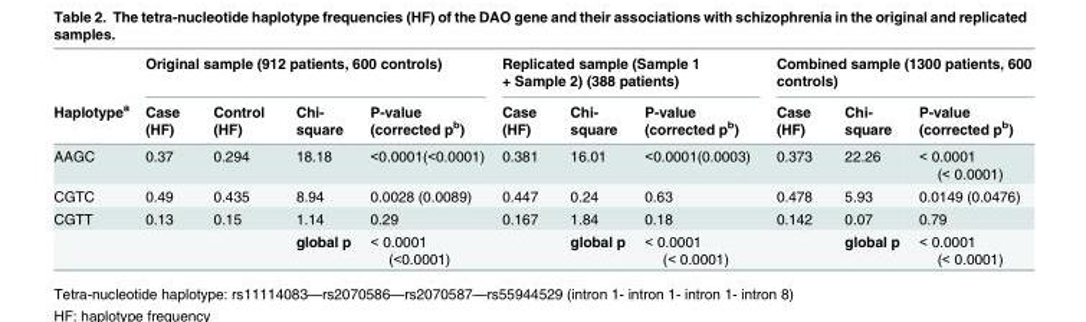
<table><thead><tr><td rowspan="2">Haplotype<sup>a</sup></td><td colspan="4">Original sample (912 patients, 600 controls)</td><td colspan="3">Replicated sample (Sample 1 + Sample 2) (388 patients)</td><td colspan="3">Combined sample (1300 patients, 600 controls)</td></tr><tr><td>Case (HF)</td><td>Control (HF)</td><td>Chi- square</td><td>P-value (corrected p<sup>b</sup>)</td><td>Case (HF)</td><td>Chi- square</td><td>P-value (corrected p<sup>b</sup>)</td><td>Case (HF)</td><td>Chi- square</td><td>P-value (corrected p<sup>b</sup>)</td></tr></thead><tbody><tr><td>AAGC</td><td>0.37</td><td>0.294</td><td>18.18</td><td>&lt;0.0001(&lt;0.0001)</td><td>0.381</td><td>16.01</td><td>&lt;0.0001(0.0003)</td><td>0.373</td><td>22.26</td><td>&lt; 0.0001 (&lt; 0.0001)</td></tr><tr><td>CGTC</td><td>0.49</td><td>0.435</td><td>8.94</td><td>0.0028 (0.0089)</td><td>0.447</td><td>0.24</td><td>0.63</td><td>0.478</td><td>5.93</td><td>0.0149 (0.0476)</td></tr><tr><td rowspan="2">CGTT</td><td>0.13</td><td>0.15</td><td>1.14</td><td>0.29</td><td>0.167</td><td>1.84</td><td>0.18</td><td>0.142</td><td>0.07</td><td>0.79</td></tr><tr><td></td><td></td><td>global p</td><td>&lt; 0.0001 (&lt;0.0001)</td><td></td><td>global p</td><td>&lt; 0.0001 (&lt; 0.0001)</td><td></td><td>global p</td><td>&lt; 0.0001 (&lt; 0.0001)</td></tr></tbody></table>